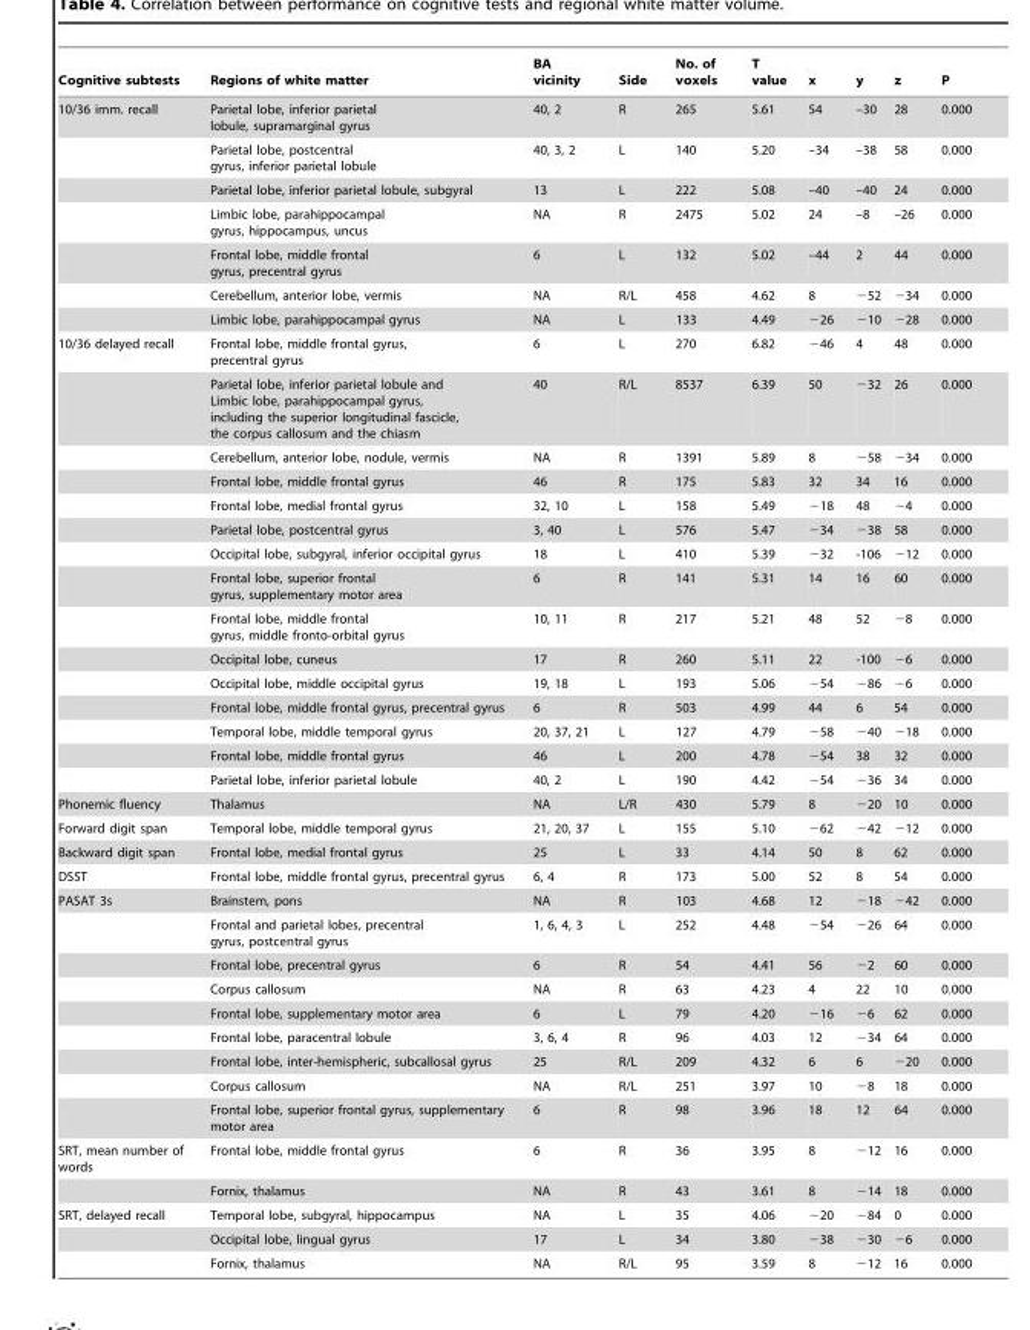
<table><thead><tr><td>Cognitive subtests</td><td>Regions of white matter</td><td>BA vicinity</td><td>Side</td><td>No. of voxels</td><td>T value</td><td>x</td><td>y</td><td>z</td><td>P</td></tr></thead><tbody><tr><td rowspan="7">10/36 imm. recall</td><td>Parietal lobe, inferior parietal lobule, supramarginal gyrus</td><td>40, 2</td><td>R</td><td>265</td><td>5.61</td><td>54</td><td>–30</td><td>28</td><td>0.000</td></tr><tr><td>Parietal lobe, postcentral gyrus, inferior parietal lobule</td><td>40, 3, 2</td><td>L</td><td>140</td><td>5.20</td><td>–34</td><td>–38</td><td>58</td><td>0.000</td></tr><tr><td>Parietal lobe, inferior parietal lobule, subgyral</td><td>13</td><td>L</td><td>222</td><td>5.08</td><td>–40</td><td>–40</td><td>24</td><td>0.000</td></tr><tr><td>Limbic lobe, parahippocampal gyrus, hippocampus, uncus</td><td>NA</td><td>R</td><td>2475</td><td>5.02</td><td>24</td><td>–8</td><td>–26</td><td>0.000</td></tr><tr><td>Frontal lobe, middle frontal gyrus, precentral gyrus</td><td>6</td><td>L</td><td>132</td><td>5.02</td><td>–44</td><td>2</td><td>44</td><td>0.000</td></tr><tr><td>Cerebellum, anterior lobe, vermis</td><td>NA</td><td>R/L</td><td>458</td><td>4.62</td><td>8</td><td>−52</td><td>−34</td><td>0.000</td></tr><tr><td>Limbic lobe, parahippocampal gyrus</td><td>NA</td><td>L</td><td>133</td><td>4.49</td><td>−26</td><td>−10</td><td>−28</td><td>0.000</td></tr><tr><td rowspan="15">10/36 delayed recall</td><td>Frontal lobe, middle frontal gyrus, precentral gyrus</td><td>6</td><td>L</td><td>270</td><td>6.82</td><td>−46</td><td>4</td><td>48</td><td>0.000</td></tr><tr><td>Parietal lobe, inferior parietal lobule and Limbic lobe, parahippocampal gyrus, including the superior longitudinal fascicle, the corpus callosum and the chiasm</td><td>40</td><td>R/L</td><td>8537</td><td>6.39</td><td>50</td><td>−32</td><td>26</td><td>0.000</td></tr><tr><td>Cerebellum, anterior lobe, nodule, vermis</td><td>NA</td><td>R</td><td>1391</td><td>5.89</td><td>8</td><td>−58</td><td>−34</td><td>0.000</td></tr><tr><td>Frontal lobe, middle frontal gyrus</td><td>46</td><td>R</td><td>175</td><td>5.83</td><td>32</td><td>34</td><td>16</td><td>0.000</td></tr><tr><td>Frontal lobe, medial frontal gyrus</td><td>32, 10</td><td>L</td><td>158</td><td>5.49</td><td>−18</td><td>48</td><td>−4</td><td>0.000</td></tr><tr><td>Parietal lobe, postcentral gyrus</td><td>3, 40</td><td>L</td><td>576</td><td>5.47</td><td>−34</td><td>−38</td><td>58</td><td>0.000</td></tr><tr><td>Occipital lobe, subgyral, inferior occipital gyrus</td><td>18</td><td>L</td><td>410</td><td>5.39</td><td>−32</td><td>-106</td><td>−12</td><td>0.000</td></tr><tr><td>Frontal lobe, superior frontal gyrus, supplementary motor area</td><td>6</td><td>R</td><td>141</td><td>5.31</td><td>14</td><td>16</td><td>60</td><td>0.000</td></tr><tr><td>Frontal lobe, middle frontal gyrus, middle fronto-orbital gyrus</td><td>10, 11</td><td>R</td><td>217</td><td>5.21</td><td>48</td><td>52</td><td>−8</td><td>0.000</td></tr><tr><td>Occipital lobe, cuneus</td><td>17</td><td>R</td><td>260</td><td>5.11</td><td>22</td><td>-100</td><td>−6</td><td>0.000</td></tr><tr><td>Occipital lobe, middle occipital gyrus</td><td>19, 18</td><td>L</td><td>193</td><td>5.06</td><td>−54</td><td>−86</td><td>−6</td><td>0.000</td></tr><tr><td>Frontal lobe, middle frontal gyrus, precentral gyrus</td><td>6</td><td>R</td><td>503</td><td>4.99</td><td>44</td><td>6</td><td>54</td><td>0.000</td></tr><tr><td>Temporal lobe, middle temporal gyrus</td><td>20, 37, 21</td><td>L</td><td>127</td><td>4.79</td><td>−58</td><td>−40</td><td>−18</td><td>0.000</td></tr><tr><td>Frontal lobe, middle frontal gyrus</td><td>46</td><td>L</td><td>200</td><td>4.78</td><td>−54</td><td>38</td><td>32</td><td>0.000</td></tr><tr><td>Parietal lobe, inferior parietal lobule</td><td>40, 2</td><td>L</td><td>190</td><td>4.42</td><td>−54</td><td>−36</td><td>34</td><td>0.000</td></tr><tr><td>Phonemic fluency</td><td>Thalamus</td><td>NA</td><td>L/R</td><td>430</td><td>5.79</td><td>8</td><td>−20</td><td>10</td><td>0.000</td></tr><tr><td>Forward digit span</td><td>Temporal lobe, middle temporal gyrus</td><td>21, 20, 37</td><td>L</td><td>155</td><td>5.10</td><td>−62</td><td>−42</td><td>−12</td><td>0.000</td></tr><tr><td>Backward digit span</td><td>Frontal lobe, medial frontal gyrus</td><td>25</td><td>L</td><td>33</td><td>4.14</td><td>50</td><td>8</td><td>62</td><td>0.000</td></tr><tr><td>DSST</td><td>Frontal lobe, middle frontal gyrus, precentral gyrus</td><td>6, 4</td><td>R</td><td>173</td><td>5.00</td><td>52</td><td>8</td><td>54</td><td>0.000</td></tr><tr><td rowspan="9">PASAT 3s</td><td>Brainstem, pons</td><td>NA</td><td>R</td><td>103</td><td>4.68</td><td>12</td><td>−18</td><td>−42</td><td>0.000</td></tr><tr><td>Frontal and parietal lobes, precentral gyrus, postcentral gyrus</td><td>1, 6, 4, 3</td><td>L</td><td>252</td><td>4.48</td><td>−54</td><td>−26</td><td>64</td><td>0.000</td></tr><tr><td>Frontal lobe, precentral gyrus</td><td>6</td><td>R</td><td>54</td><td>4.41</td><td>56</td><td>−2</td><td>60</td><td>0.000</td></tr><tr><td>Corpus callosum</td><td>NA</td><td>R</td><td>63</td><td>4.23</td><td>4</td><td>22</td><td>10</td><td>0.000</td></tr><tr><td>Frontal lobe, supplementary motor area</td><td>6</td><td>L</td><td>79</td><td>4.20</td><td>−16</td><td>−6</td><td>62</td><td>0.000</td></tr><tr><td>Frontal lobe, paracentral lobule</td><td>3, 6, 4</td><td>R</td><td>96</td><td>4.03</td><td>12</td><td>−34</td><td>64</td><td>0.000</td></tr><tr><td>Frontal lobe, inter-hemispheric, subcallosal gyrus</td><td>25</td><td>R/L</td><td>209</td><td>4.32</td><td>6</td><td>6</td><td>−20</td><td>0.000</td></tr><tr><td>Corpus callosum</td><td>NA</td><td>R/L</td><td>251</td><td>3.97</td><td>10</td><td>−8</td><td>18</td><td>0.000</td></tr><tr><td>Frontal lobe, superior frontal gyrus, supplementary motor area</td><td>6</td><td>R</td><td>98</td><td>3.96</td><td>18</td><td>12</td><td>64</td><td>0.000</td></tr><tr><td rowspan="2">SRT, mean number of words</td><td>Frontal lobe, middle frontal gyrus</td><td>6</td><td>R</td><td>36</td><td>3.95</td><td>8</td><td>−12</td><td>16</td><td>0.000</td></tr><tr><td>Fornix, thalamus</td><td>NA</td><td>R</td><td>43</td><td>3.61</td><td>8</td><td>−14</td><td>18</td><td>0.000</td></tr><tr><td rowspan="3">SRT, delayed recall</td><td>Temporal lobe, subgyral, hippocampus</td><td>NA</td><td>L</td><td>35</td><td>4.06</td><td>−20</td><td>−84</td><td>0</td><td>0.000</td></tr><tr><td>Occipital lobe, lingual gyrus</td><td>17</td><td>L</td><td>34</td><td>3.80</td><td>−38</td><td>−30</td><td>−6</td><td>0.000</td></tr><tr><td>Fornix, thalamus</td><td>NA</td><td>R/L</td><td>95</td><td>3.59</td><td>8</td><td>−12</td><td>16</td><td>0.000</td></tr></tbody></table>